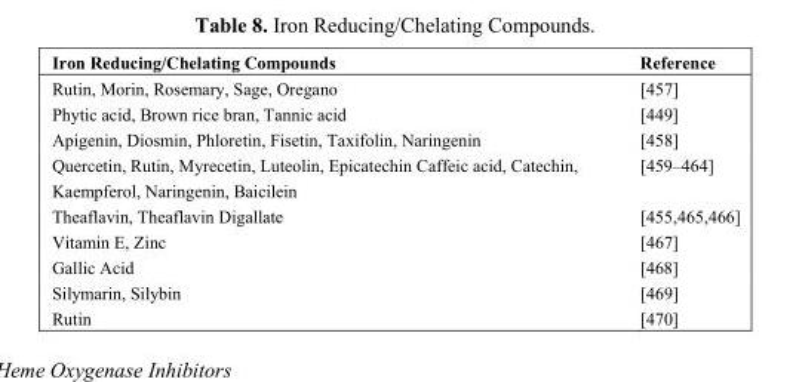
<table><thead><tr><td>Iron Reducing/Chelating Compounds</td><td>Reference</td></tr></thead><tbody><tr><td>Rutin, Morin, Rosemary, Sage, Oregano</td><td>[457]</td></tr><tr><td>Phytic acid, Brown rice bran, Tannic acid</td><td>[449]</td></tr><tr><td>Apigenin, Diosmin, Phloretin, Fisetin, Taxifolin, Naringenin</td><td>[458]</td></tr><tr><td>Quercetin, Rutin, Myrecetin, Luteolin, Epicatechin Caffeic acid, Catechin, Kaempferol, Naringenin, Baicilein</td><td>[459–464]</td></tr><tr><td>Theaflavin, Theaflavin Digallate</td><td>[455,465,466]</td></tr><tr><td>Vitamin E, Zinc</td><td>[467]</td></tr><tr><td>Gallic Acid</td><td>[468]</td></tr><tr><td>Silymarin, Silybin</td><td>[469]</td></tr><tr><td>Rutin</td><td>[470]</td></tr></tbody></table>